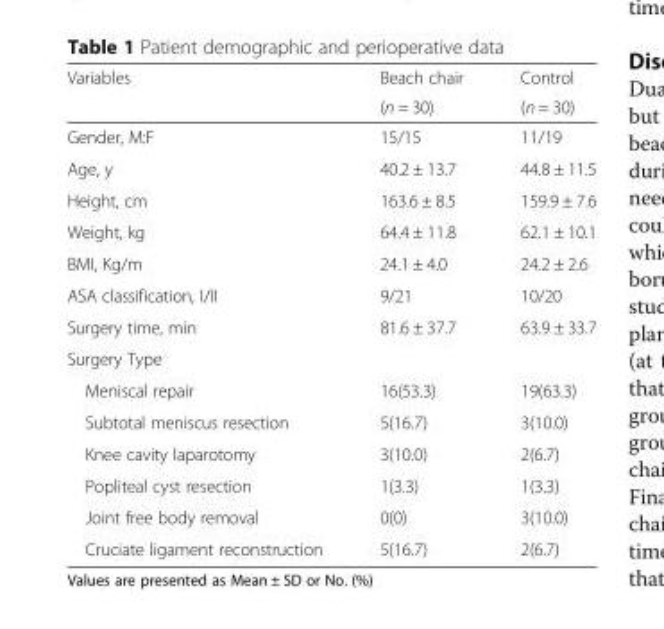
<table><thead><tr><td rowspan="2">Variables</td><td rowspan="2">Beach chair (n = 30)</td><td rowspan="2">Control (n = 30)</td></tr><tr></tr></thead><tbody><tr><td>Gender, M:F</td><td>15/15</td><td>11/19</td></tr><tr><td>Age, y</td><td>40.2 ± 13.7</td><td>44.8 ± 11.5</td></tr><tr><td>Height, cm</td><td>163.6 ± 8.5</td><td>159.9 ± 7.6</td></tr><tr><td>Weight, kg</td><td>64.4 ± 11.8</td><td>62.1 ± 10.1</td></tr><tr><td>BMI, Kg/m</td><td>24.1 ± 4.0</td><td>24.2 ± 2.6</td></tr><tr><td>ASA classification, I/II</td><td>9/21</td><td>10/20</td></tr><tr><td>Surgery time, min</td><td>81.6 ± 37.7</td><td>63.9 ± 33.7</td></tr><tr><td colspan="3">Surgery Type</td></tr><tr><td>Meniscal repair</td><td>16(53.3)</td><td>19(63.3)</td></tr><tr><td>Subtotal meniscus resection</td><td>5(16.7)</td><td>3(10.0)</td></tr><tr><td>Knee cavity laparotomy</td><td>3(10.0)</td><td>2(6.7)</td></tr><tr><td>Popliteal cyst resection</td><td>1(3.3)</td><td>1(3.3)</td></tr><tr><td>Joint free body removal</td><td>0(0)</td><td>3(10.0)</td></tr><tr><td>Cruciate ligament reconstruction</td><td>5(16.7)</td><td>2(6.7)</td></tr></tbody></table>